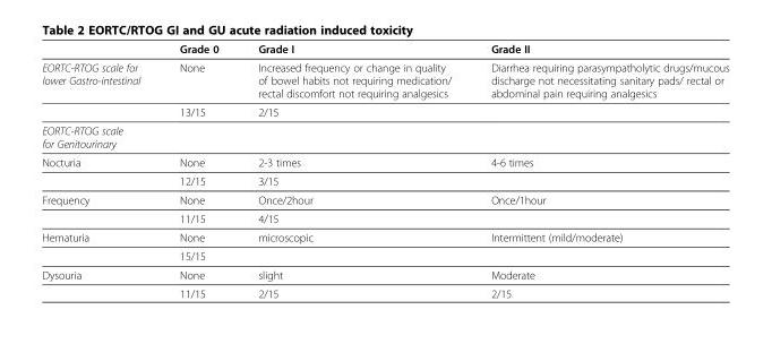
<table><thead><tr><td></td><td>Grade 0</td><td>Grade I</td><td>Grade II</td></tr></thead><tbody><tr><td rowspan="2">EORTC-RTOG scale for lower Gastro-intestinal</td><td>None</td><td>Increased frequency or change in quality of bowel habits not requiring medication/ rectal discomfort not requiring analgesics</td><td>Diarrhea requiring parasympatholytic drugs/mucous discharge not necessitating sanitary pads/ rectal or abdominal pain requiring analgesics</td></tr><tr><td>13/15</td><td>2/15</td><td></td></tr><tr><td colspan="4">EORTC-RTOG scale for Genitourinary</td></tr><tr><td rowspan="2">Nocturia</td><td>None</td><td>2-3 times</td><td>4-6 times</td></tr><tr><td>12/15</td><td>3/15</td><td></td></tr><tr><td rowspan="2">Frequency</td><td>None</td><td>Once/2hour</td><td>Once/1hour</td></tr><tr><td>11/15</td><td>4/15</td><td></td></tr><tr><td rowspan="2">Hematuria</td><td>None</td><td>microscopic</td><td>Intermittent (mild/moderate)</td></tr><tr><td>15/15</td><td></td><td></td></tr><tr><td rowspan="2">Dysouria</td><td>None</td><td>slight</td><td>Moderate</td></tr><tr><td>11/15</td><td>2/15</td><td>2/15</td></tr></tbody></table>